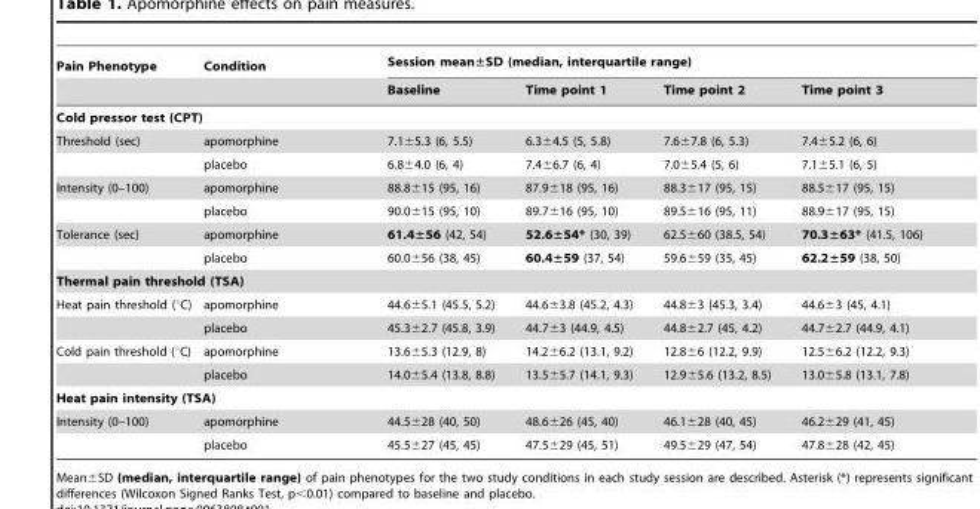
<table><thead><tr><td rowspan="2">Pain Phenotype</td><td rowspan="2">Condition</td><td colspan="4">Session mean±SD (median, interquartile range)</td></tr><tr><td>Baseline</td><td>Time point 1</td><td>Time point 2</td><td>Time point 3</td></tr></thead><tbody><tr><td colspan="6">Cold pressor test (CPT)</td></tr><tr><td rowspan="2">Threshold (sec)</td><td>apomorphine</td><td>7.1±5.3 (6, 5.5)</td><td>6.3±4.5 (5, 5.8)</td><td>7.6±7.8 (6, 5.3)</td><td>7.4±5.2 (6, 6)</td></tr><tr><td>placebo</td><td>6.8±4.0 (6, 4)</td><td>7.4±6.7 (6, 4)</td><td>7.0±5.4 (5, 6)</td><td>7.1±5.1 (6, 5)</td></tr><tr><td rowspan="2">Intensity (0–100)</td><td>apomorphine</td><td>88.8±15 (95, 16)</td><td>87.9±18 (95, 16)</td><td>88.3±17 (95, 15)</td><td>88.5±17 (95, 15)</td></tr><tr><td>placebo</td><td>90.0±15 (95, 10)</td><td>89.7±16 (95, 10)</td><td>89.5±16 (95, 11)</td><td>88.9±17 (95, 15)</td></tr><tr><td rowspan="2">Tolerance (sec)</td><td>apomorphine</td><td>61.4±56 (42, 54)</td><td>52.6±54* (30, 39)</td><td>62.5±60 (38.5, 54)</td><td>70.3±63* (41.5, 106)</td></tr><tr><td>placebo</td><td>60.0±56 (38, 45)</td><td>60.4±59 (37, 54)</td><td>59.6±59 (35, 45)</td><td>62.2±59 (38, 50)</td></tr><tr><td colspan="6">Thermal pain threshold (TSA)</td></tr><tr><td rowspan="2">Heat pain threshold (°C)</td><td>apomorphine</td><td>44.6±5.1 (45.5, 5.2)</td><td>44.6±3.8 (45.2, 4.3)</td><td>44.8±3 (45.3, 3.4)</td><td>44.6±3 (45, 4.1)</td></tr><tr><td>placebo</td><td>45.3±2.7 (45.8, 3.9)</td><td>44.7±3 (44.9, 4.5)</td><td>44.8±2.7 (45, 4.2)</td><td>44.7±2.7 (44.9, 4.1)</td></tr><tr><td rowspan="2">Cold pain threshold (°C)</td><td>apomorphine</td><td>13.6±5.3 (12.9, 8)</td><td>14.2±6.2 (13.1, 9.2)</td><td>12.8±6 (12.2, 9.9)</td><td>12.5±6.2 (12.2, 9.3)</td></tr><tr><td>placebo</td><td>14.0±5.4 (13.8, 8.8)</td><td>13.5±5.7 (14.1, 9.3)</td><td>12.9±5.6 (13.2, 8.5)</td><td>13.0±5.8 (13.1, 7.8)</td></tr><tr><td colspan="6">Heat pain intensity (TSA)</td></tr><tr><td rowspan="2">Intensity (0–100)</td><td>apomorphine</td><td>44.5±28 (40, 50)</td><td>48.6±26 (45, 40)</td><td>46.1±28 (40, 45)</td><td>46.2±29 (41, 45)</td></tr><tr><td>placebo</td><td>45.5±27 (45, 45)</td><td>47.5±29 (45, 51)</td><td>49.5±29 (47, 54)</td><td>47.8±28 (42, 45)</td></tr></tbody></table>